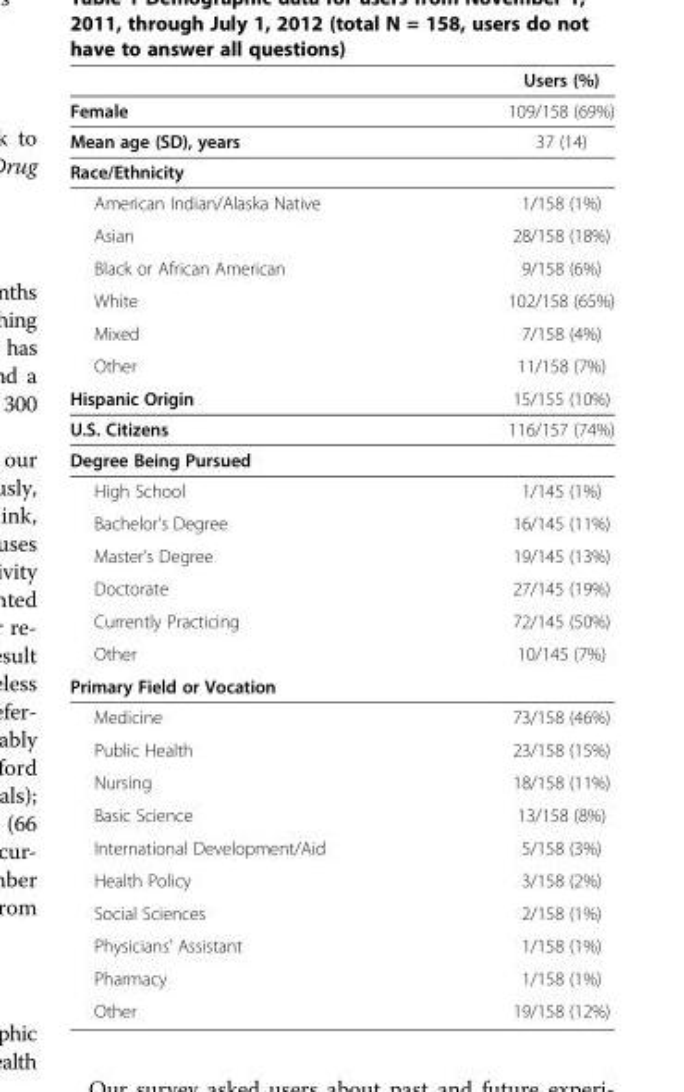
<table><thead><tr><td></td><td>Users (%)</td></tr></thead><tbody><tr><td>Female</td><td>109/158 (69%)</td></tr><tr><td>Mean age (SD), years</td><td>37 (14)</td></tr><tr><td colspan="2">Race/Ethnicity</td></tr><tr><td>American Indian/Alaska Native</td><td>1/158 (1%)</td></tr><tr><td>Asian</td><td>28/158 (18%)</td></tr><tr><td>Black or African American</td><td>9/158 (6%)</td></tr><tr><td>White</td><td>102/158 (65%)</td></tr><tr><td>Mixed</td><td>7/158 (4%)</td></tr><tr><td>Other</td><td>11/158 (7%)</td></tr><tr><td>Hispanic Origin</td><td>15/155 (10%)</td></tr><tr><td>U.S. Citizens</td><td>116/157 (74%)</td></tr><tr><td colspan="2">Degree Being Pursued</td></tr><tr><td>High School</td><td>1/145 (1%)</td></tr><tr><td>Bachelor’s Degree</td><td>16/145 (11%)</td></tr><tr><td>Master’s Degree</td><td>19/145 (13%)</td></tr><tr><td>Doctorate</td><td>27/145 (19%)</td></tr><tr><td>Currently Practicing</td><td>72/145 (50%)</td></tr><tr><td>Other</td><td>10/145 (7%)</td></tr><tr><td colspan="2">Primary Field or Vocation</td></tr><tr><td>Medicine</td><td>73/158 (46%)</td></tr><tr><td>Public Health</td><td>23/158 (15%)</td></tr><tr><td>Nursing</td><td>18/158 (11%)</td></tr><tr><td>Basic Science</td><td>13/158 (8%)</td></tr><tr><td>International Development/Aid</td><td>5/158 (3%)</td></tr><tr><td>Health Policy</td><td>3/158 (2%)</td></tr><tr><td>Social Sciences</td><td>2/158 (1%)</td></tr><tr><td>Physicians’ Assistant</td><td>1/158 (1%)</td></tr><tr><td>Pharmacy</td><td>1/158 (1%)</td></tr><tr><td>Other</td><td>19/158 (12%)</td></tr></tbody></table>